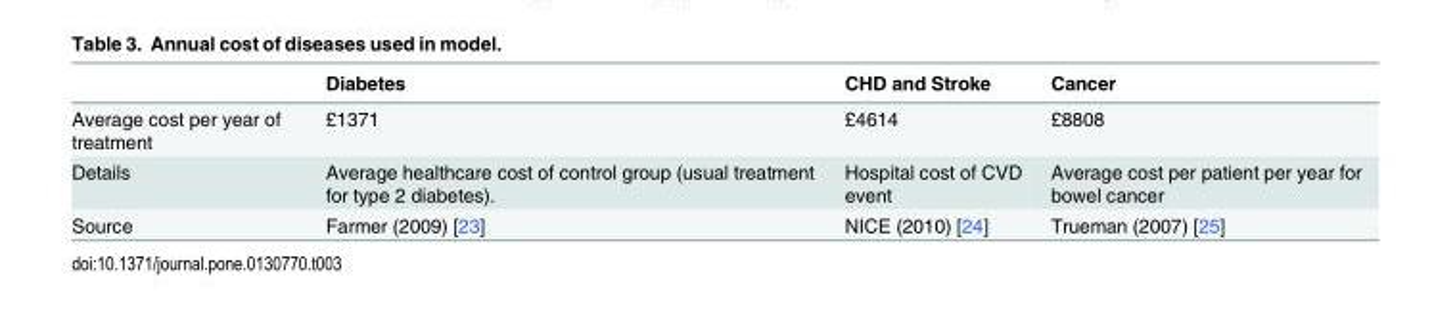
<table><thead><tr><td></td><td>Diabetes</td><td>CHD and Stroke</td><td>Cancer</td></tr></thead><tbody><tr><td>Average cost per year of treatment</td><td>£1371</td><td>£4614</td><td>£8808</td></tr><tr><td>Details</td><td>Average healthcare cost of control group (usual treatment for type 2 diabetes).</td><td>Hospital cost of CVD event</td><td>Average cost per patient per year for bowel cancer</td></tr><tr><td>Source</td><td>Farmer (2009) [23]</td><td>NICE (2010) [24]</td><td>Trueman (2007) [25]</td></tr></tbody></table>